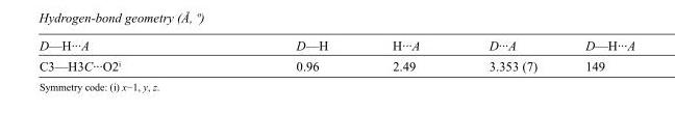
<table><tbody><tr><td>D—H···A</td><td>D—H</td><td>H···A</td><td>D···A</td><td>D—H···A</td></tr><tr><td>C3—H3C···O2<sup>i</sup></td><td>0.96</td><td>2.49</td><td>3.353 (7)</td><td>149</td></tr></tbody></table>